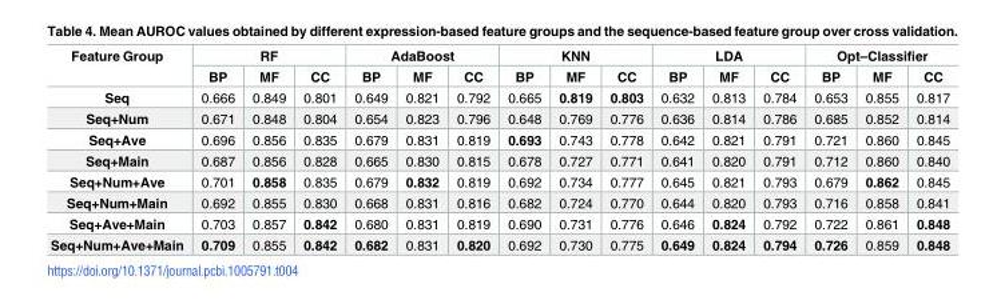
<table><thead><tr><td rowspan="2">Feature Group</td><td colspan="3">RF</td><td colspan="3">AdaBoost</td><td colspan="3">KNN</td><td colspan="3">LDA</td><td colspan="3">Opt–Classifier</td></tr><tr><td>BP</td><td>MF</td><td>CC</td><td>BP</td><td>MF</td><td>CC</td><td>BP</td><td>MF</td><td>CC</td><td>BP</td><td>MF</td><td>CC</td><td>BP</td><td>MF</td><td>CC</td></tr></thead><tbody><tr><td>Seq</td><td>0.666</td><td>0.849</td><td>0.801</td><td>0.649</td><td>0.821</td><td>0.792</td><td>0.665</td><td>0.819</td><td>0.803</td><td>0.632</td><td>0.813</td><td>0.784</td><td>0.653</td><td>0.855</td><td>0.817</td></tr><tr><td>Seq+Num</td><td>0.671</td><td>0.848</td><td>0.804</td><td>0.654</td><td>0.823</td><td>0.796</td><td>0.648</td><td>0.769</td><td>0.776</td><td>0.636</td><td>0.814</td><td>0.786</td><td>0.685</td><td>0.852</td><td>0.814</td></tr><tr><td>Seq+Ave</td><td>0.696</td><td>0.856</td><td>0.835</td><td>0.679</td><td>0.831</td><td>0.819</td><td>0.693</td><td>0.743</td><td>0.778</td><td>0.642</td><td>0.821</td><td>0.791</td><td>0.721</td><td>0.860</td><td>0.845</td></tr><tr><td>Seq+Main</td><td>0.687</td><td>0.856</td><td>0.828</td><td>0.665</td><td>0.830</td><td>0.815</td><td>0.678</td><td>0.727</td><td>0.771</td><td>0.641</td><td>0.820</td><td>0.791</td><td>0.712</td><td>0.860</td><td>0.840</td></tr><tr><td>Seq+Num+Ave</td><td>0.701</td><td>0.858</td><td>0.835</td><td>0.679</td><td>0.832</td><td>0.819</td><td>0.692</td><td>0.734</td><td>0.777</td><td>0.645</td><td>0.821</td><td>0.793</td><td>0.679</td><td>0.862</td><td>0.845</td></tr><tr><td>Seq+Num+Main</td><td>0.692</td><td>0.855</td><td>0.830</td><td>0.668</td><td>0.831</td><td>0.816</td><td>0.682</td><td>0.724</td><td>0.770</td><td>0.644</td><td>0.820</td><td>0.793</td><td>0.716</td><td>0.858</td><td>0.841</td></tr><tr><td>Seq+Ave+Main</td><td>0.703</td><td>0.857</td><td>0.842</td><td>0.680</td><td>0.831</td><td>0.819</td><td>0.690</td><td>0.731</td><td>0.776</td><td>0.646</td><td>0.824</td><td>0.792</td><td>0.722</td><td>0.861</td><td>0.848</td></tr><tr><td>Seq+Num+Ave+Main</td><td>0.709</td><td>0.855</td><td>0.842</td><td>0.682</td><td>0.831</td><td>0.820</td><td>0.692</td><td>0.730</td><td>0.775</td><td>0.649</td><td>0.824</td><td>0.794</td><td>0.726</td><td>0.859</td><td>0.848</td></tr></tbody></table>